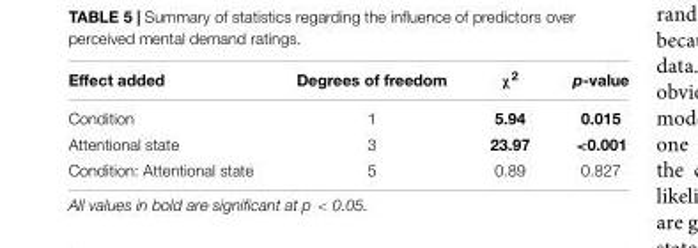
<table><thead><tr><td>Effect added</td><td>Degrees of freedom</td><td>χ<sup>2</sup></td><td>p-value</td></tr></thead><tbody><tr><td>Condition</td><td>1</td><td>5.94</td><td>0.015</td></tr><tr><td>Attentional state</td><td>3</td><td>23.97</td><td>&lt;0.001</td></tr><tr><td>Condition: Attentional state</td><td>5</td><td>0.89</td><td>0.827</td></tr></tbody></table>